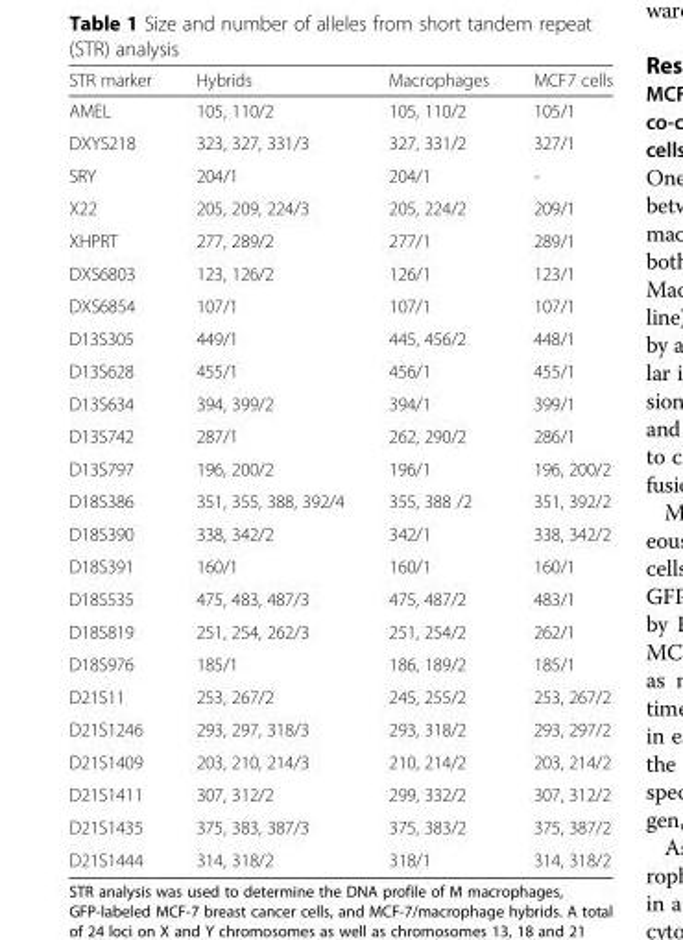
<table><thead><tr><td>STR marker</td><td>Hybrids</td><td>Macrophages</td><td>MCF7 cells</td></tr></thead><tbody><tr><td>AMEL</td><td>105, 110/2</td><td>105, 110/2</td><td>105/1</td></tr><tr><td>DXYS218</td><td>323, 327, 331/3</td><td>327, 331/2</td><td>327/1</td></tr><tr><td>SRY</td><td>204/1</td><td>204/1</td><td>-</td></tr><tr><td>X22</td><td>205, 209, 224/3</td><td>205, 224/2</td><td>209/1</td></tr><tr><td>XHPRT</td><td>277, 289/2</td><td>277/1</td><td>289/1</td></tr><tr><td>DXS6803</td><td>123, 126/2</td><td>126/1</td><td>123/1</td></tr><tr><td>DXS6854</td><td>107/1</td><td>107/1</td><td>107/1</td></tr><tr><td>D13S305</td><td>449/1</td><td>445, 456/2</td><td>448/1</td></tr><tr><td>D13S628</td><td>455/1</td><td>456/1</td><td>455/1</td></tr><tr><td>D13S634</td><td>394, 399/2</td><td>394/1</td><td>399/1</td></tr><tr><td>D13S742</td><td>287/1</td><td>262, 290/2</td><td>286/1</td></tr><tr><td>D13S797</td><td>196, 200/2</td><td>196/1</td><td>196, 200/2</td></tr><tr><td>D18S386</td><td>351, 355, 388, 392/4</td><td>355, 388 /2</td><td>351, 392/2</td></tr><tr><td>D18S390</td><td>338, 342/2</td><td>342/1</td><td>338, 342/2</td></tr><tr><td>D18S391</td><td>160/1</td><td>160/1</td><td>160/1</td></tr><tr><td>D18S535</td><td>475, 483, 487/3</td><td>475, 487/2</td><td>483/1</td></tr><tr><td>D18S819</td><td>251, 254, 262/3</td><td>251, 254/2</td><td>262/1</td></tr><tr><td>D18S976</td><td>185/1</td><td>186, 189/2</td><td>185/1</td></tr><tr><td>D21S11</td><td>253, 267/2</td><td>245, 255/2</td><td>253, 267/2</td></tr><tr><td>D21S1246</td><td>293, 297, 318/3</td><td>293, 318/2</td><td>293, 297/2</td></tr><tr><td>D21S1409</td><td>203, 210, 214/3</td><td>210, 214/2</td><td>203, 214/2</td></tr><tr><td>D21S1411</td><td>307, 312/2</td><td>299, 332/2</td><td>307, 312/2</td></tr><tr><td>D21S1435</td><td>375, 383, 387/3</td><td>375, 383/2</td><td>375, 387/2</td></tr><tr><td>D21S1444</td><td>314, 318/2</td><td>318/1</td><td>314, 318/2</td></tr></tbody></table>